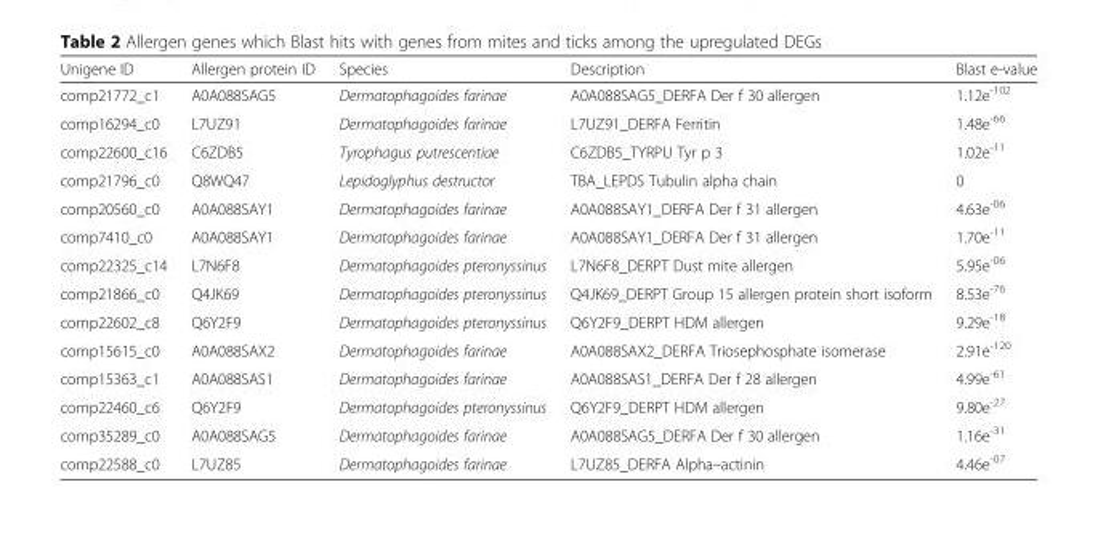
<table><thead><tr><td>Unigene ID</td><td>Allergen protein ID</td><td>Species</td><td>Description</td><td>Blast e-value</td></tr></thead><tbody><tr><td>comp21772_c1</td><td>A0A088SAG5</td><td>Dermatophagoides farinae</td><td>A0A088SAG5_DERFA Der f 30 allergen</td><td>1.12e<sup>-102</sup></td></tr><tr><td>comp16294_c0</td><td>L7UZ91</td><td>Dermatophagoides farinae</td><td>L7UZ91_DERFA Ferritin</td><td>1.48e<sup>-66</sup></td></tr><tr><td>comp22600_c16</td><td>C6ZDB5</td><td>Tyrophagus putrescentiae</td><td>C6ZDB5_TYRPU Tyr p 3</td><td>1.02e<sup>-11</sup></td></tr><tr><td>comp21796_c0</td><td>Q8WQ47</td><td>Lepidoglyphus destructor</td><td>TBA_LEPDS Tubulin alpha chain</td><td>0</td></tr><tr><td>comp20560_c0</td><td>A0A088SAY1</td><td>Dermatophagoides farinae</td><td>A0A088SAY1_DERFA Der f 31 allergen</td><td>4.63e<sup>-06</sup></td></tr><tr><td>comp7410_c0</td><td>A0A088SAY1</td><td>Dermatophagoides farinae</td><td>A0A088SAY1_DERFA Der f 31 allergen</td><td>1.70e<sup>-11</sup></td></tr><tr><td>comp22325_c14</td><td>L7N6F8</td><td>Dermatophagoides pteronyssinus</td><td>L7N6F8_DERPT Dust mite allergen</td><td>5.95e<sup>-06</sup></td></tr><tr><td>comp21866_c0</td><td>Q4JK69</td><td>Dermatophagoides pteronyssinus</td><td>Q4JK69_DERPT Group 15 allergen protein short isoform</td><td>8.53e<sup>-76</sup></td></tr><tr><td>comp22602_c8</td><td>Q6Y2F9</td><td>Dermatophagoides pteronyssinus</td><td>Q6Y2F9_DERPT HDM allergen</td><td>9.29e<sup>-18</sup></td></tr><tr><td>comp15615_c0</td><td>A0A088SAX2</td><td>Dermatophagoides farinae</td><td>A0A088SAX2_DERFA Triosephosphate isomerase</td><td>2.91e<sup>-120</sup></td></tr><tr><td>comp15363_c1</td><td>A0A088SAS1</td><td>Dermatophagoides farinae</td><td>A0A088SAS1_DERFA Der f 28 allergen</td><td>4.99e<sup>-61</sup></td></tr><tr><td>comp22460_c6</td><td>Q6Y2F9</td><td>Dermatophagoides pteronyssinus</td><td>Q6Y2F9_DERPT HDM allergen</td><td>9.80e<sup>-27</sup></td></tr><tr><td>comp35289_c0</td><td>A0A088SAG5</td><td>Dermatophagoides farinae</td><td>A0A088SAG5_DERFA Der f 30 allergen</td><td>1.16e<sup>-31</sup></td></tr><tr><td>comp22588_c0</td><td>L7UZ85</td><td>Dermatophagoides farinae</td><td>L7UZ85_DERFA Alpha–actinin</td><td>4.46e<sup>-07</sup></td></tr></tbody></table>